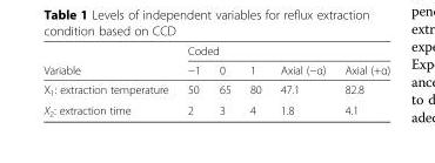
<table><thead><tr><td rowspan="2">Variable</td><td colspan="5">Coded</td></tr><tr><td>−1</td><td>0</td><td>1</td><td>Axial (−α)</td><td>Axial (+α)</td></tr></thead><tbody><tr><td>X<sub>1</sub>: extraction temperature</td><td>50</td><td>65</td><td>80</td><td>47.1</td><td>82.8</td></tr><tr><td>X<sub>2</sub>: extraction time</td><td>2</td><td>3</td><td>4</td><td>1.8</td><td>4.1</td></tr></tbody></table>